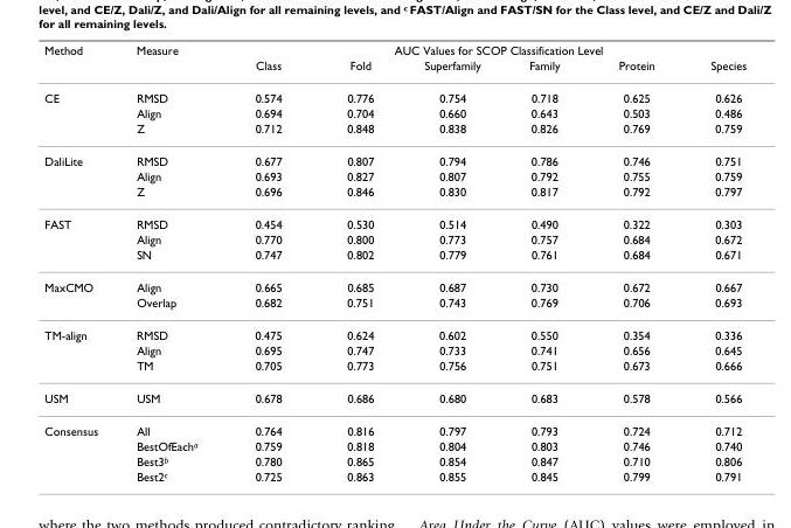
<table><thead><tr><td rowspan="2">Method</td><td rowspan="2">Measure</td><td colspan="6">AUC Values for SCOP Classification Level</td></tr><tr><td>Class</td><td>Fold</td><td>Superfamily</td><td>Family</td><td>Protein</td><td>Species</td></tr></thead><tbody><tr><td rowspan="3">CE</td><td>RMSD</td><td>0.574</td><td>0.776</td><td>0.754</td><td>0.718</td><td>0.625</td><td>0.626</td></tr><tr><td>Align</td><td>0.694</td><td>0.704</td><td>0.660</td><td>0.643</td><td>0.503</td><td>0.486</td></tr><tr><td>Z</td><td>0.712</td><td>0.848</td><td>0.838</td><td>0.826</td><td>0.769</td><td>0.759</td></tr><tr><td rowspan="3">DaliLite</td><td>RMSD</td><td>0.677</td><td>0.807</td><td>0.794</td><td>0.786</td><td>0.746</td><td>0.751</td></tr><tr><td>Align</td><td>0.693</td><td>0.827</td><td>0.807</td><td>0.792</td><td>0.755</td><td>0.759</td></tr><tr><td>Z</td><td>0.696</td><td>0.846</td><td>0.830</td><td>0.817</td><td>0.792</td><td>0.797</td></tr><tr><td rowspan="3">FAST</td><td>RMSD</td><td>0.454</td><td>0.530</td><td>0.514</td><td>0.490</td><td>0.322</td><td>0.303</td></tr><tr><td>Align</td><td>0.770</td><td>0.800</td><td>0.773</td><td>0.757</td><td>0.684</td><td>0.672</td></tr><tr><td>SN</td><td>0.747</td><td>0.802</td><td>0.779</td><td>0.761</td><td>0.684</td><td>0.671</td></tr><tr><td rowspan="2">MaxCMO</td><td>Align</td><td>0.665</td><td>0.685</td><td>0.687</td><td>0.730</td><td>0.672</td><td>0.667</td></tr><tr><td>Overlap</td><td>0.682</td><td>0.751</td><td>0.743</td><td>0.769</td><td>0.706</td><td>0.693</td></tr><tr><td rowspan="3">TM-align</td><td>RMSD</td><td>0.475</td><td>0.624</td><td>0.602</td><td>0.550</td><td>0.354</td><td>0.336</td></tr><tr><td>Align</td><td>0.695</td><td>0.747</td><td>0.733</td><td>0.741</td><td>0.656</td><td>0.645</td></tr><tr><td>TM</td><td>0.705</td><td>0.773</td><td>0.756</td><td>0.751</td><td>0.673</td><td>0.666</td></tr><tr><td>USM</td><td>USM</td><td>0.678</td><td>0.686</td><td>0.680</td><td>0.683</td><td>0.578</td><td>0.566</td></tr><tr><td rowspan="4">Consensus</td><td>All</td><td>0.764</td><td>0.816</td><td>0.797</td><td>0.793</td><td>0.724</td><td>0.712</td></tr><tr><td>BestOfEach<sup>a</sup></td><td>0.759</td><td>0.818</td><td>0.804</td><td>0.803</td><td>0.746</td><td>0.740</td></tr><tr><td>Best3<sup>b</sup></td><td>0.780</td><td>0.865</td><td>0.854</td><td>0.847</td><td>0.710</td><td>0.806</td></tr><tr><td>Best2<sup>c</sup></td><td>0.725</td><td>0.863</td><td>0.855</td><td>0.845</td><td>0.799</td><td>0.791</td></tr></tbody></table>